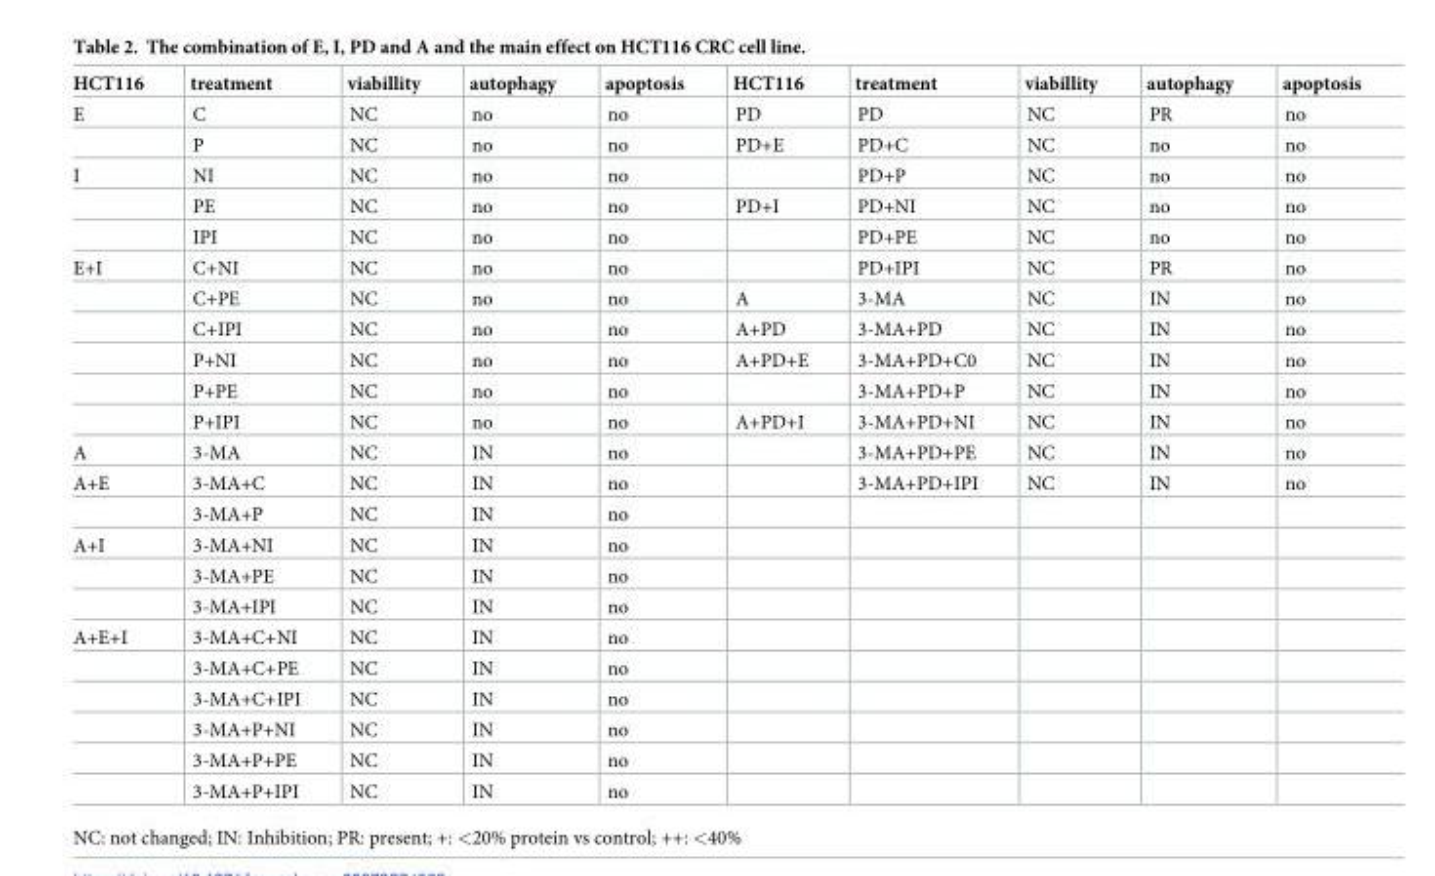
<table><thead><tr><td>HCT116</td><td>treatment</td><td>viabillity</td><td>autophagy</td><td>apoptosis</td><td>HCT116</td><td>treatment</td><td>viabillity</td><td>autophagy</td><td>apoptosis</td></tr></thead><tbody><tr><td rowspan="2">E</td><td>C</td><td>NC</td><td>no</td><td>no</td><td>PD</td><td>PD</td><td>NC</td><td>PR</td><td>no</td></tr><tr><td>P</td><td>NC</td><td>no</td><td>no</td><td>PD+E</td><td>PD+C</td><td>NC</td><td>no</td><td>no</td></tr><tr><td rowspan="3">I</td><td>NI</td><td>NC</td><td>no</td><td>no</td><td></td><td>PD+P</td><td>NC</td><td>no</td><td>no</td></tr><tr><td>PE</td><td>NC</td><td>no</td><td>no</td><td>PD+I</td><td>PD+NI</td><td>NC</td><td>no</td><td>no</td></tr><tr><td>IPI</td><td>NC</td><td>no</td><td>no</td><td></td><td>PD+PE</td><td>NC</td><td>no</td><td>no</td></tr><tr><td rowspan="6">E+I</td><td>C+NI</td><td>NC</td><td>no</td><td>no</td><td></td><td>PD+IPI</td><td>NC</td><td>PR</td><td>no</td></tr><tr><td>C+PE</td><td>NC</td><td>no</td><td>no</td><td>A</td><td>3-MA</td><td>NC</td><td>IN</td><td>no</td></tr><tr><td>C+IPI</td><td>NC</td><td>no</td><td>no</td><td>A+PD</td><td>3-MA+PD</td><td>NC</td><td>IN</td><td>no</td></tr><tr><td>P+NI</td><td>NC</td><td>no</td><td>no</td><td>A+PD+E</td><td>3-MA+PD+C0</td><td>NC</td><td>IN</td><td>no</td></tr><tr><td>P+PE</td><td>NC</td><td>no</td><td>no</td><td></td><td>3-MA+PD+P</td><td>NC</td><td>IN</td><td>no</td></tr><tr><td>P+IPI</td><td>NC</td><td>no</td><td>no</td><td>A+PD+I</td><td>3-MA+PD+NI</td><td>NC</td><td>IN</td><td>no</td></tr><tr><td>A</td><td>3-MA</td><td>NC</td><td>IN</td><td>no</td><td></td><td>3-MA+PD+PE</td><td>NC</td><td>IN</td><td>no</td></tr><tr><td rowspan="2">A+E</td><td>3-MA+C</td><td>NC</td><td>IN</td><td>no</td><td></td><td>3-MA+PD+IPI</td><td>NC</td><td>IN</td><td>no</td></tr><tr><td>3-MA+P</td><td>NC</td><td>IN</td><td>no</td><td></td><td></td><td></td><td></td><td></td></tr><tr><td rowspan="3">A+I</td><td>3-MA+NI</td><td>NC</td><td>IN</td><td>no</td><td></td><td></td><td></td><td></td><td></td></tr><tr><td>3-MA+PE</td><td>NC</td><td>IN</td><td>no</td><td></td><td></td><td></td><td></td><td></td></tr><tr><td>3-MA+IPI</td><td>NC</td><td>IN</td><td>no</td><td></td><td></td><td></td><td></td><td></td></tr><tr><td rowspan="6">A+E+I</td><td>3-MA+C+NI</td><td>NC</td><td>IN</td><td>no</td><td></td><td></td><td></td><td></td><td></td></tr><tr><td>3-MA+C+PE</td><td>NC</td><td>IN</td><td>no</td><td></td><td></td><td></td><td></td><td></td></tr><tr><td>3-MA+C+IPI</td><td>NC</td><td>IN</td><td>no</td><td></td><td></td><td></td><td></td><td></td></tr><tr><td>3-MA+P+NI</td><td>NC</td><td>IN</td><td>no</td><td></td><td></td><td></td><td></td><td></td></tr><tr><td>3-MA+P+PE</td><td>NC</td><td>IN</td><td>no</td><td></td><td></td><td></td><td></td><td></td></tr><tr><td>3-MA+P+IPI</td><td>NC</td><td>IN</td><td>no</td><td></td><td></td><td></td><td></td><td></td></tr></tbody></table>